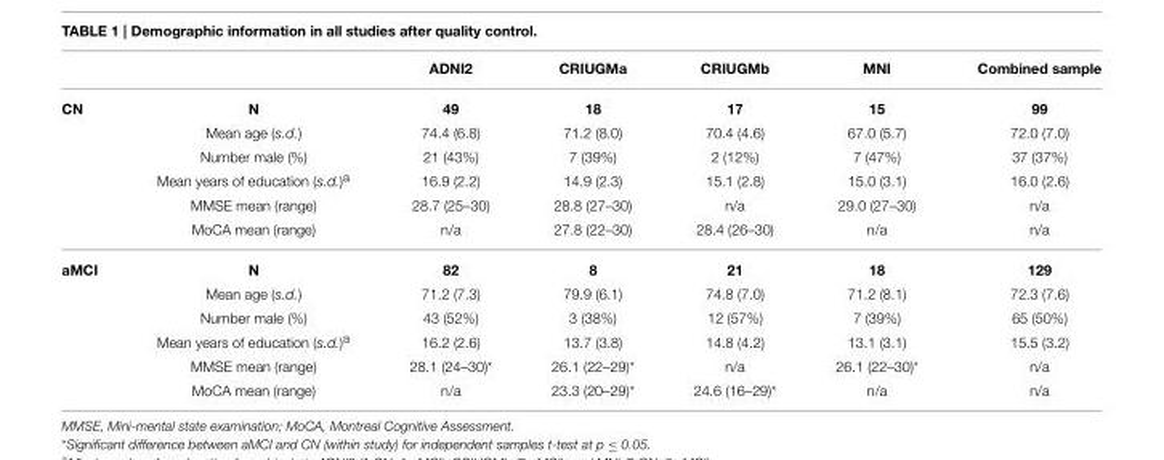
<table><thead><tr><td></td><td></td><td>ADNI2</td><td>CRIUGMa</td><td>CRIUGMb</td><td>MNI</td><td>Combined sample</td></tr></thead><tbody><tr><td rowspan="6">CN</td><td>N</td><td>49</td><td>18</td><td>17</td><td>15</td><td>99</td></tr><tr><td>Mean age (s.d.)</td><td>74.4 (6.8)</td><td>71.2 (8.0)</td><td>70.4 (4.6)</td><td>67.0 (5.7)</td><td>72.0 (7.0)</td></tr><tr><td>Number male (%)</td><td>21 (43%)</td><td>7 (39%)</td><td>2 (12%)</td><td>7 (47%)</td><td>37 (37%)</td></tr><tr><td>Mean years of education (s.d.)<sup>a</sup></td><td>16.9 (2.2)</td><td>14.9 (2.3)</td><td>15.1 (2.8)</td><td>15.0 (3.1)</td><td>16.0 (2.6)</td></tr><tr><td>MMSE mean (range)</td><td>28.7 (25–30)</td><td>28.8 (27–30)</td><td>n/a</td><td>29.0 (27–30)</td><td>n/a</td></tr><tr><td>MoCA mean (range)</td><td>n/a</td><td>27.8 (22–30)</td><td>28.4 (26–30)</td><td>n/a</td><td>n/a</td></tr><tr><td rowspan="6">aMCI</td><td>N</td><td>82</td><td>8</td><td>21</td><td>18</td><td>129</td></tr><tr><td>Mean age (s.d.)</td><td>71.2 (7.3)</td><td>79.9 (6.1)</td><td>74.8 (7.0)</td><td>71.2 (8.1)</td><td>72.3 (7.6)</td></tr><tr><td>Number male (%)</td><td>43 (52%)</td><td>3 (38%)</td><td>12 (57%)</td><td>7 (39%)</td><td>65 (50%)</td></tr><tr><td>Mean years of education (s.d.)<sup>a</sup></td><td>16.2 (2.6)</td><td>13.7 (3.8)</td><td>14.8 (4.2)</td><td>13.1 (3.1)</td><td>15.5 (3.2)</td></tr><tr><td>MMSE mean (range)</td><td>28.1 (24–30)*</td><td>26.1 (22–29)*</td><td>n/a</td><td>26.1 (22–30)*</td><td>n/a</td></tr><tr><td>MoCA mean (range)</td><td>n/a</td><td>23.3 (20–29)*</td><td>24.6 (16–29)*</td><td>n/a</td><td>n/a</td></tr></tbody></table>